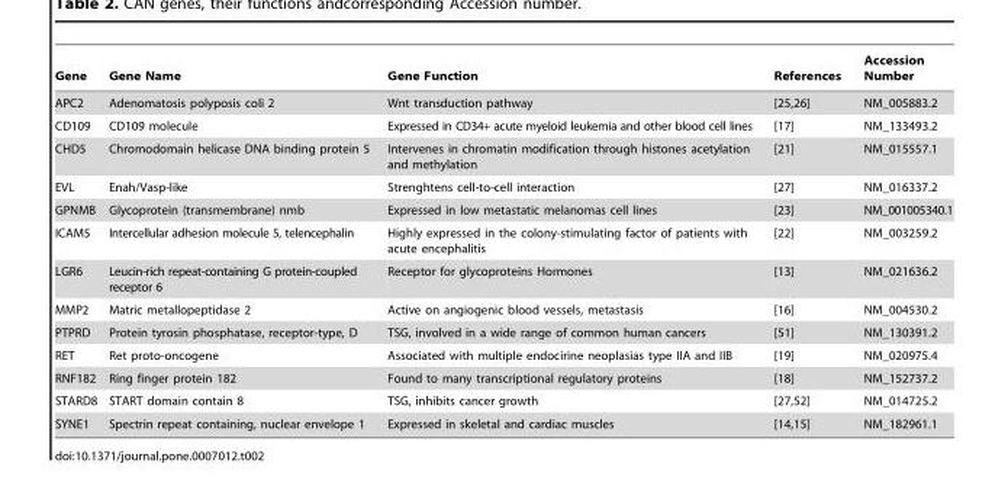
<table><thead><tr><td>Gene</td><td>Gene Name</td><td>Gene Function</td><td>References</td><td>Accession Number</td></tr></thead><tbody><tr><td>APC2</td><td>Adenomatosis polyposis coli 2</td><td>Wnt transduction pathway</td><td>[25,26]</td><td>NM_005883.2</td></tr><tr><td>CD109</td><td>CD109 molecule</td><td>Expressed in CD34+ acute myeloid leukemia and other blood cell lines</td><td>[17]</td><td>NM_133493.2</td></tr><tr><td>CHD5</td><td>Chromodomain helicase DNA binding protein 5</td><td>Intervenes in chromatin modification through histones acetylation and methylation</td><td>[21]</td><td>NM_015557.1</td></tr><tr><td>EVL</td><td>Enah/Vasp-like</td><td>Strenghtens cell-to-cell interaction</td><td>[27]</td><td>NM_016337.2</td></tr><tr><td>GPNMB</td><td>Glycoprotein (transmembrane) nmb</td><td>Expressed in low metastatic melanomas cell lines</td><td>[23]</td><td>NM_001005340.1</td></tr><tr><td>ICAM5</td><td>Intercellular adhesion molecule 5, telencephalin</td><td>Highly expressed in the colony-stimulating factor of patients with acute encephalitis</td><td>[22]</td><td>NM_003259.2</td></tr><tr><td>LGR6</td><td>Leucin-rich repeat-containing G protein-coupled receptor 6</td><td>Receptor for glycoproteins Hormones</td><td>[13]</td><td>NM_021636.2</td></tr><tr><td>MMP2</td><td>Matric metallopeptidase 2</td><td>Active on angiogenic blood vessels, metastasis</td><td>[16]</td><td>NM_004530.2</td></tr><tr><td>PTPRD</td><td>Protein tyrosin phosphatase, receptor-type, D</td><td>TSG, involved in a wide range of common human cancers</td><td>[51]</td><td>NM_130391.2</td></tr><tr><td>RET</td><td>Ret proto-oncogene</td><td>Associated with multiple endocirine neoplasias type IIA and IIB</td><td>[19]</td><td>NM_020975.4</td></tr><tr><td>RNF182</td><td>Ring finger protein 182</td><td>Found to many transcriptional regulatory proteins</td><td>[18]</td><td>NM_152737.2</td></tr><tr><td>STARD8</td><td>START domain contain 8</td><td>TSG, inhibits cancer growth</td><td>[27,52]</td><td>NM_014725.2</td></tr><tr><td>SYNE1</td><td>Spectrin repeat containing, nuclear envelope 1</td><td>Expressed in skeletal and cardiac muscles</td><td>[14,15]</td><td>NM_182961.1</td></tr></tbody></table>